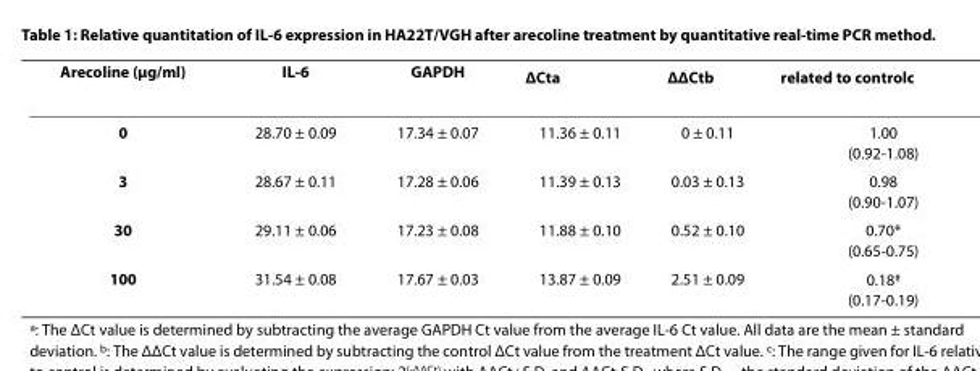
<table><thead><tr><td>Arecoline (μg/ml)</td><td>IL-6</td><td>GAPDH</td><td>ΔCt<sup>a</sup></td><td>ΔΔCt<sup>b</sup></td><td>related to control<sup>c</sup></td></tr></thead><tbody><tr><td>0</td><td>28.70 ± 0.09</td><td>17.34 ± 0.07</td><td>11.36 ± 0.11</td><td>0 ± 0.11</td><td>1.00 (0.92-1.08)</td></tr><tr><td>3</td><td>28.67 ± 0.11</td><td>17.28 ± 0.06</td><td>11.39 ± 0.13</td><td>0.03 ± 0.13</td><td>0.98 (0.90-1.07)</td></tr><tr><td>30</td><td>29.11 ± 0.06</td><td>17.23 ± 0.08</td><td>11.88 ± 0.10</td><td>0.52 ± 0.10</td><td>0.70* (0.65-0.75)</td></tr><tr><td>100</td><td>31.54 ± 0.08</td><td>17.67 ± 0.03</td><td>13.87 ± 0.09</td><td>2.51 ± 0.09</td><td>0.18<sup>#</sup> (0.17-0.19)</td></tr></tbody></table>